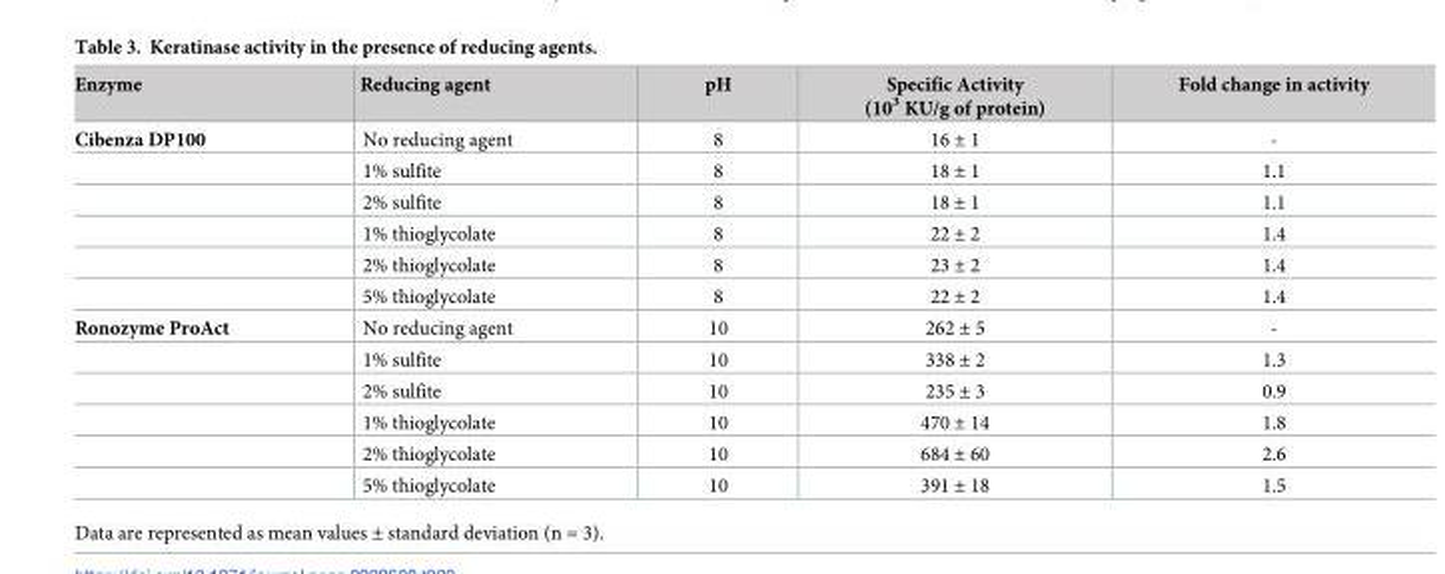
<table><thead><tr><td>Enzyme</td><td>Reducing agent</td><td>pH</td><td>Specific Activity (10<sup>3</sup> KU/g of protein)</td><td>Fold change in activity</td></tr></thead><tbody><tr><td rowspan="6">Cibenza DP100</td><td>No reducing agent</td><td>8</td><td>16 ± 1</td><td>-</td></tr><tr><td>1% sulfite</td><td>8</td><td>18 ± 1</td><td>1.1</td></tr><tr><td>2% sulfite</td><td>8</td><td>18 ± 1</td><td>1.1</td></tr><tr><td>1% thioglycolate</td><td>8</td><td>22 ± 2</td><td>1.4</td></tr><tr><td>2% thioglycolate</td><td>8</td><td>23 ± 2</td><td>1.4</td></tr><tr><td>5% thioglycolate</td><td>8</td><td>22 ± 2</td><td>1.4</td></tr><tr><td rowspan="6">Ronozyme ProAct</td><td>No reducing agent</td><td>10</td><td>262 ± 5</td><td>-</td></tr><tr><td>1% sulfite</td><td>10</td><td>338 ± 2</td><td>1.3</td></tr><tr><td>2% sulfite</td><td>10</td><td>235 ± 3</td><td>0.9</td></tr><tr><td>1% thioglycolate</td><td>10</td><td>470 ± 14</td><td>1.8</td></tr><tr><td>2% thioglycolate</td><td>10</td><td>684 ± 60</td><td>2.6</td></tr><tr><td>5% thioglycolate</td><td>10</td><td>391 ± 18</td><td>1.5</td></tr></tbody></table>